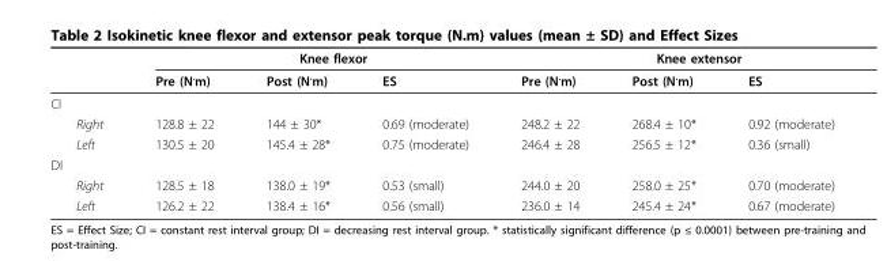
<table><thead><tr><td rowspan="2"></td><td colspan="3">Knee flexor</td><td colspan="3">Knee extensor</td></tr><tr><td>Pre (N<sup>.</sup>m)</td><td>Post (N<sup>.</sup>m)</td><td>ES</td><td>Pre (N<sup>.</sup>m)</td><td>Post (N<sup>.</sup>m)</td><td>ES</td></tr></thead><tbody><tr><td colspan="7">CI</td></tr><tr><td>Right</td><td>128.8 ± 22</td><td>144 ± 30*</td><td>0.69 (moderate)</td><td>248.2 ± 22</td><td>268.4 ± 10*</td><td>0.92 (moderate)</td></tr><tr><td>Left</td><td>130.5 ± 20</td><td>145.4 ± 28*</td><td>0.75 (moderate)</td><td>246.4 ± 28</td><td>256.5 ± 12*</td><td>0.36 (small)</td></tr><tr><td colspan="7">DI</td></tr><tr><td>Right</td><td>128.5 ± 18</td><td>138.0 ± 19*</td><td>0.53 (small)</td><td>244.0 ± 20</td><td>258.0 ± 25*</td><td>0.70 (moderate)</td></tr><tr><td>Left</td><td>126.2 ± 22</td><td>138.4 ± 16*</td><td>0.56 (small)</td><td>236.0 ± 14</td><td>245.4 ± 24*</td><td>0.67 (moderate)</td></tr></tbody></table>